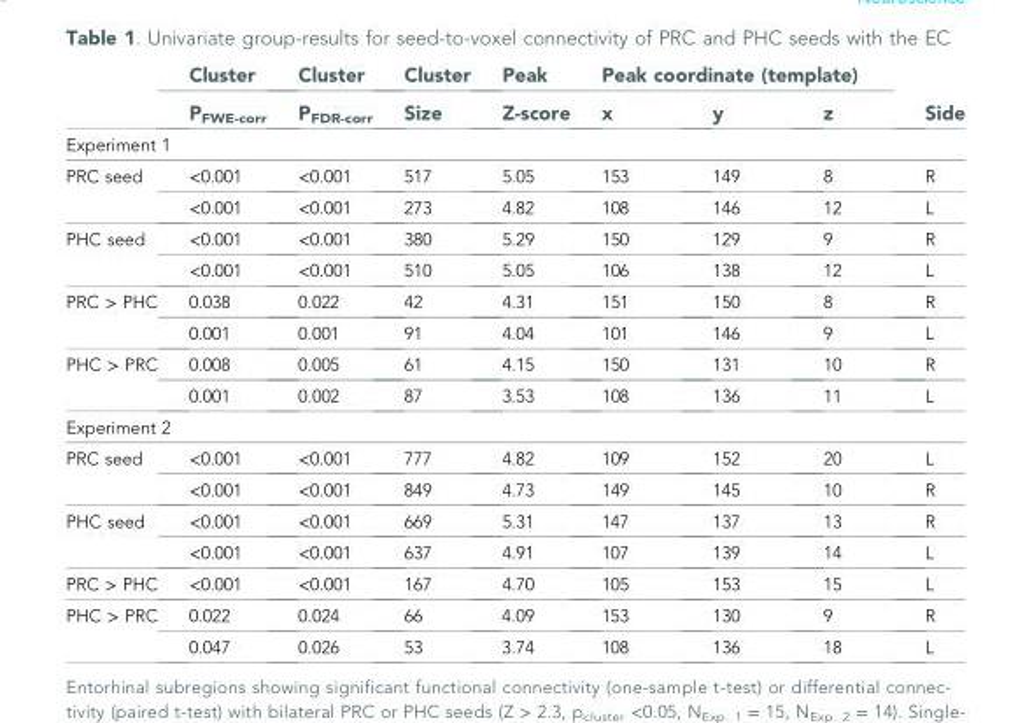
<table><thead><tr><td rowspan="2"></td><td rowspan="2">Cluster P<sub>FWE-corr</sub></td><td rowspan="2">Cluster P<sub>FDR-corr</sub></td><td rowspan="2">Cluster Size</td><td rowspan="2">Peak Z-score</td><td colspan="3">Peak coordinate (template)</td><td rowspan="2">Side</td></tr><tr><td>x</td><td>y</td><td>z</td></tr></thead><tbody><tr><td colspan="9">Experiment 1</td></tr><tr><td rowspan="2">PRC seed</td><td>&lt;0.001</td><td>&lt;0.001</td><td>517</td><td>5.05</td><td>153</td><td>149</td><td>8</td><td>R</td></tr><tr><td>&lt;0.001</td><td>&lt;0.001</td><td>273</td><td>4.82</td><td>108</td><td>146</td><td>12</td><td>L</td></tr><tr><td rowspan="2">PHC seed</td><td>&lt;0.001</td><td>&lt;0.001</td><td>380</td><td>5.29</td><td>150</td><td>129</td><td>9</td><td>R</td></tr><tr><td>&lt;0.001</td><td>&lt;0.001</td><td>510</td><td>5.05</td><td>106</td><td>138</td><td>12</td><td>L</td></tr><tr><td rowspan="2">PRC &gt; PHC</td><td>0.038</td><td>0.022</td><td>42</td><td>4.31</td><td>151</td><td>150</td><td>8</td><td>R</td></tr><tr><td>0.001</td><td>0.001</td><td>91</td><td>4.04</td><td>101</td><td>146</td><td>9</td><td>L</td></tr><tr><td rowspan="2">PHC &gt; PRC</td><td>0.008</td><td>0.005</td><td>61</td><td>4.15</td><td>150</td><td>131</td><td>10</td><td>R</td></tr><tr><td>0.001</td><td>0.002</td><td>87</td><td>3.53</td><td>108</td><td>136</td><td>11</td><td>L</td></tr><tr><td colspan="9">Experiment 2</td></tr><tr><td rowspan="2">PRC seed</td><td>&lt;0.001</td><td>&lt;0.001</td><td>777</td><td>4.82</td><td>109</td><td>152</td><td>20</td><td>L</td></tr><tr><td>&lt;0.001</td><td>&lt;0.001</td><td>849</td><td>4.73</td><td>149</td><td>145</td><td>10</td><td>R</td></tr><tr><td rowspan="2">PHC seed</td><td>&lt;0.001</td><td>&lt;0.001</td><td>669</td><td>5.31</td><td>147</td><td>137</td><td>13</td><td>R</td></tr><tr><td>&lt;0.001</td><td>&lt;0.001</td><td>637</td><td>4.91</td><td>107</td><td>139</td><td>14</td><td>L</td></tr><tr><td>PRC &gt; PHC</td><td>&lt;0.001</td><td>&lt;0.001</td><td>167</td><td>4.70</td><td>105</td><td>153</td><td>15</td><td>L</td></tr><tr><td rowspan="2">PHC &gt; PRC</td><td>0.022</td><td>0.024</td><td>66</td><td>4.09</td><td>153</td><td>130</td><td>9</td><td>R</td></tr><tr><td>0.047</td><td>0.026</td><td>53</td><td>3.74</td><td>108</td><td>136</td><td>18</td><td>L</td></tr></tbody></table>